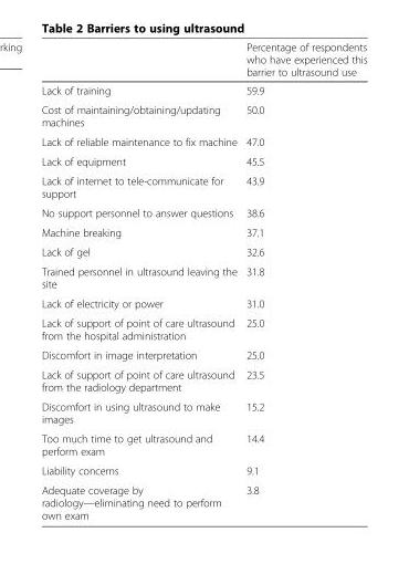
<table><thead><tr><td></td><td>Percentage of respondents who have experienced this barrier to ultrasound use</td></tr></thead><tbody><tr><td>Lack of training</td><td>59.9</td></tr><tr><td>Cost of maintaining/obtaining/updating machines</td><td>50.0</td></tr><tr><td>Lack of reliable maintenance to fix machine</td><td>47.0</td></tr><tr><td>Lack of equipment</td><td>45.5</td></tr><tr><td>Lack of internet to tele-communicate for support</td><td>43.9</td></tr><tr><td>No support personnel to answer questions</td><td>38.6</td></tr><tr><td>Machine breaking</td><td>37.1</td></tr><tr><td>Lack of gel</td><td>32.6</td></tr><tr><td>Trained personnel in ultrasound leaving the site</td><td>31.8</td></tr><tr><td>Lack of electricity or power</td><td>31.0</td></tr><tr><td>Lack of support of point of care ultrasound from the hospital administration</td><td>25.0</td></tr><tr><td>Discomfort in image interpretation</td><td>25.0</td></tr><tr><td>Lack of support of point of care ultrasound from the radiology department</td><td>23.5</td></tr><tr><td>Discomfort in using ultrasound to make images</td><td>15.2</td></tr><tr><td>Too much time to get ultrasound and perform exam</td><td>14.4</td></tr><tr><td>Liability concerns</td><td>9.1</td></tr><tr><td>Adequate coverage by radiology—eliminating need to perform own exam</td><td>3.8</td></tr></tbody></table>